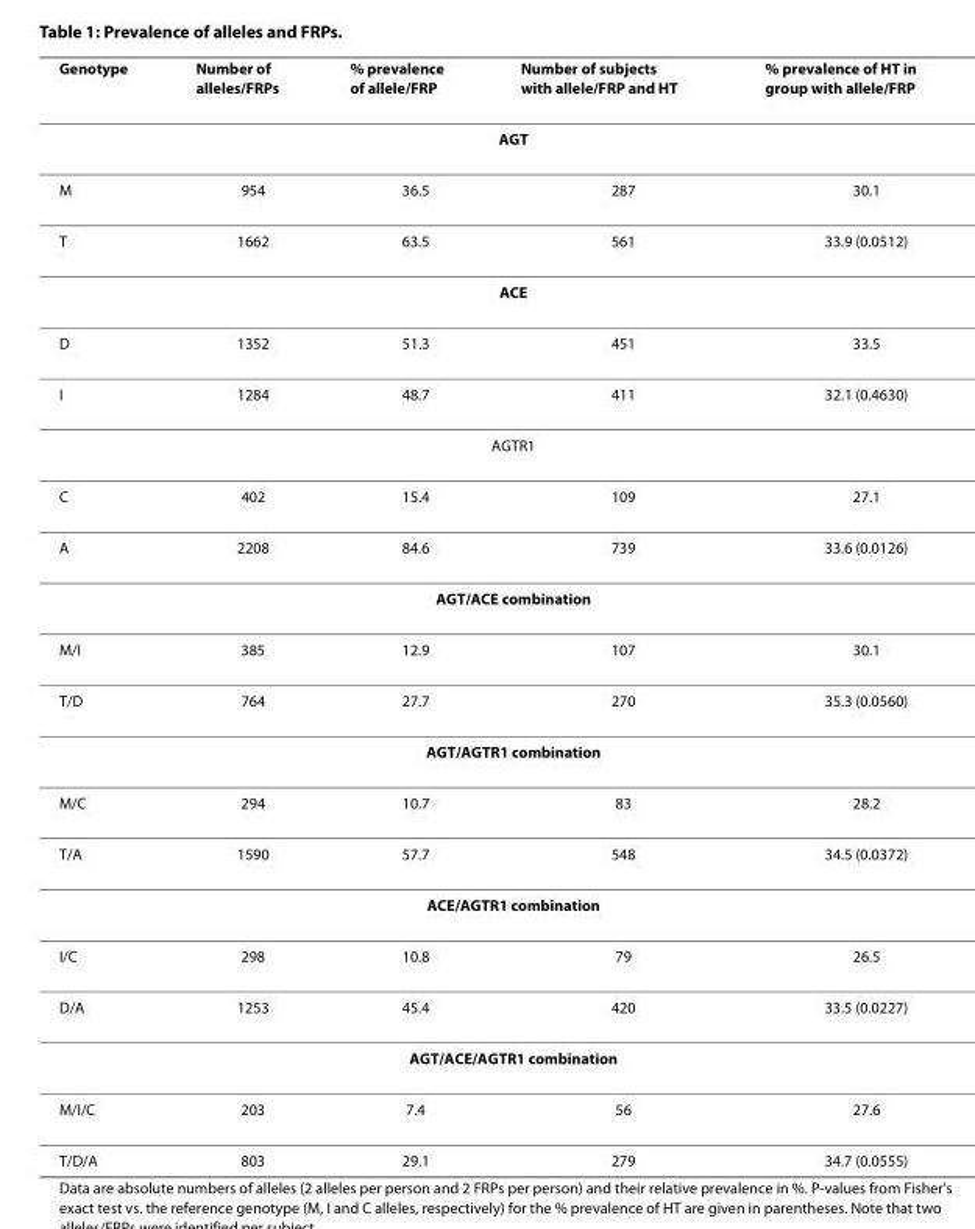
<table><thead><tr><td>Genotype</td><td>Number of alleles/FRPs</td><td>% prevalence of allele/FRP</td><td>Number of subjects with allele/FRP and HT</td><td>% prevalence of HT in group with allele/FRP</td></tr></thead><tbody><tr><td colspan="5">AGT</td></tr><tr><td>M</td><td>954</td><td>36.5</td><td>287</td><td>30.1</td></tr><tr><td>T</td><td>1662</td><td>63.5</td><td>561</td><td>33.9 (0.0512)</td></tr><tr><td colspan="5">ACE</td></tr><tr><td>D</td><td>1352</td><td>51.3</td><td>451</td><td>33.5</td></tr><tr><td>I</td><td>1284</td><td>48.7</td><td>411</td><td>32.1 (0.4630)</td></tr><tr><td colspan="5">AGTR1</td></tr><tr><td>C</td><td>402</td><td>15.4</td><td>109</td><td>27.1</td></tr><tr><td>A</td><td>2208</td><td>84.6</td><td>739</td><td>33.6 (0.0126)</td></tr><tr><td colspan="5">AGT/ACE combination</td></tr><tr><td>M/I</td><td>385</td><td>12.9</td><td>107</td><td>30.1</td></tr><tr><td>T/D</td><td>764</td><td>27.7</td><td>270</td><td>35.3 (0.0560)</td></tr><tr><td colspan="5">AGT/AGTR1 combination</td></tr><tr><td>M/C</td><td>294</td><td>10.7</td><td>83</td><td>28.2</td></tr><tr><td>T/A</td><td>1590</td><td>57.7</td><td>548</td><td>34.5 (0.0372)</td></tr><tr><td colspan="5">ACE/AGTR1 combination</td></tr><tr><td>I/C</td><td>298</td><td>10.8</td><td>79</td><td>26.5</td></tr><tr><td>D/A</td><td>1253</td><td>45.4</td><td>420</td><td>33.5 (0.0227)</td></tr><tr><td colspan="5">AGT/ACE/AGTR1 combination</td></tr><tr><td>M/I/C</td><td>203</td><td>7.4</td><td>56</td><td>27.6</td></tr><tr><td>T/D/A</td><td>803</td><td>29.1</td><td>279</td><td>34.7 (0.0555)</td></tr></tbody></table>